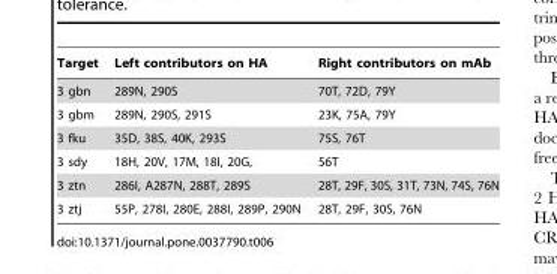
<table><thead><tr><td>Target</td><td>Left contributors on HA</td><td>Right contributors on mAb</td></tr></thead><tbody><tr><td>3 gbn</td><td>289N, 290S</td><td>70T, 72D, 79Y</td></tr><tr><td>3 gbm</td><td>289N, 290S, 291S</td><td>23K, 75A, 79Y</td></tr><tr><td>3 fku</td><td>35D, 38S, 40K, 293S</td><td>75S, 76T</td></tr><tr><td>3 sdy</td><td>18H, 20V, 17M, 18I, 20G,</td><td>56T</td></tr><tr><td>3 ztn</td><td>286I, A287N, 288T, 289S</td><td>28T, 29F, 30S, 31T, 73N, 74S, 76N</td></tr><tr><td>3 ztj</td><td>55P, 278I, 280E, 288I, 289P, 290N</td><td>28T, 29F, 30S, 76N</td></tr></tbody></table>